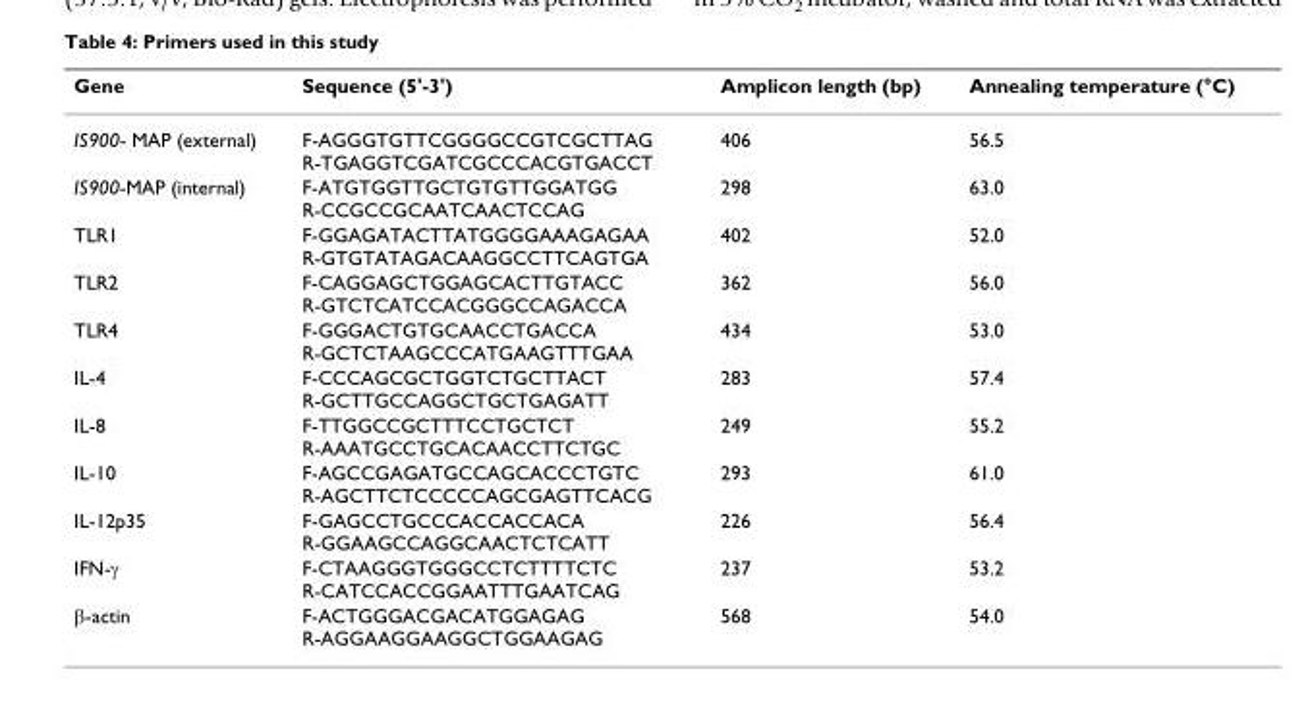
<table><thead><tr><td>Gene</td><td>Sequence (5&#x27;-3&#x27;)</td><td>Amplicon length (bp)</td><td>Annealing temperature (°C)</td></tr></thead><tbody><tr><td>IS900- MAP (external)</td><td>F-AGGGTGTTCGGGGCCGTCGCTTAG R-TGAGGTCGATCGCCCACGTGACCT</td><td>406</td><td>56.5</td></tr><tr><td>IS900-MAP (internal)</td><td>F-ATGTGGTTGCTGTGTTGGATGG R-CCGCCGCAATCAACTCCAG</td><td>298</td><td>63.0</td></tr><tr><td>TLR1</td><td>F-GGAGATACTTATGGGGAAAGAGAA R-GTGTATAGACAAGGCCTTCAGTGA</td><td>402</td><td>52.0</td></tr><tr><td>TLR2</td><td>F-CAGGAGCTGGAGCACTTGTACC R-GTCTCATCCACGGGCCAGACCA</td><td>362</td><td>56.0</td></tr><tr><td>TLR4</td><td>F-GGGACTGTGCAACCTGACCA R-GCTCTAAGCCCATGAAGTTTGAA</td><td>434</td><td>53.0</td></tr><tr><td>IL-4</td><td>F-CCCAGCGCTGGTCTGCTTACT R-GCTTGCCAGGCTGCTGAGATT</td><td>283</td><td>57.4</td></tr><tr><td>IL-8</td><td>F-TTGGCCGCTTTCCTGCTCT R-AAATGCCTGCACAACCTTCTGC</td><td>249</td><td>55.2</td></tr><tr><td>IL-10</td><td>F-AGCCGAGATGCCAGCACCCTGTC R-AGCTTCTCCCCCAGCGAGTTCACG</td><td>293</td><td>61.0</td></tr><tr><td>IL-12p35</td><td>F-GAGCCTGCCCACCACCACA R-GGAAGCCAGGCAACTCTCATT</td><td>226</td><td>56.4</td></tr><tr><td>IFN-γ</td><td>F-CTAAGGGTGGGCCTCTTTTCTC R-CATCCACCGGAATTTGAATCAG</td><td>237</td><td>53.2</td></tr><tr><td>β-actin</td><td>F-ACTGGGACGACATGGAGAG R-AGGAAGGAAGGCTGGAAGAG</td><td>568</td><td>54.0</td></tr></tbody></table>